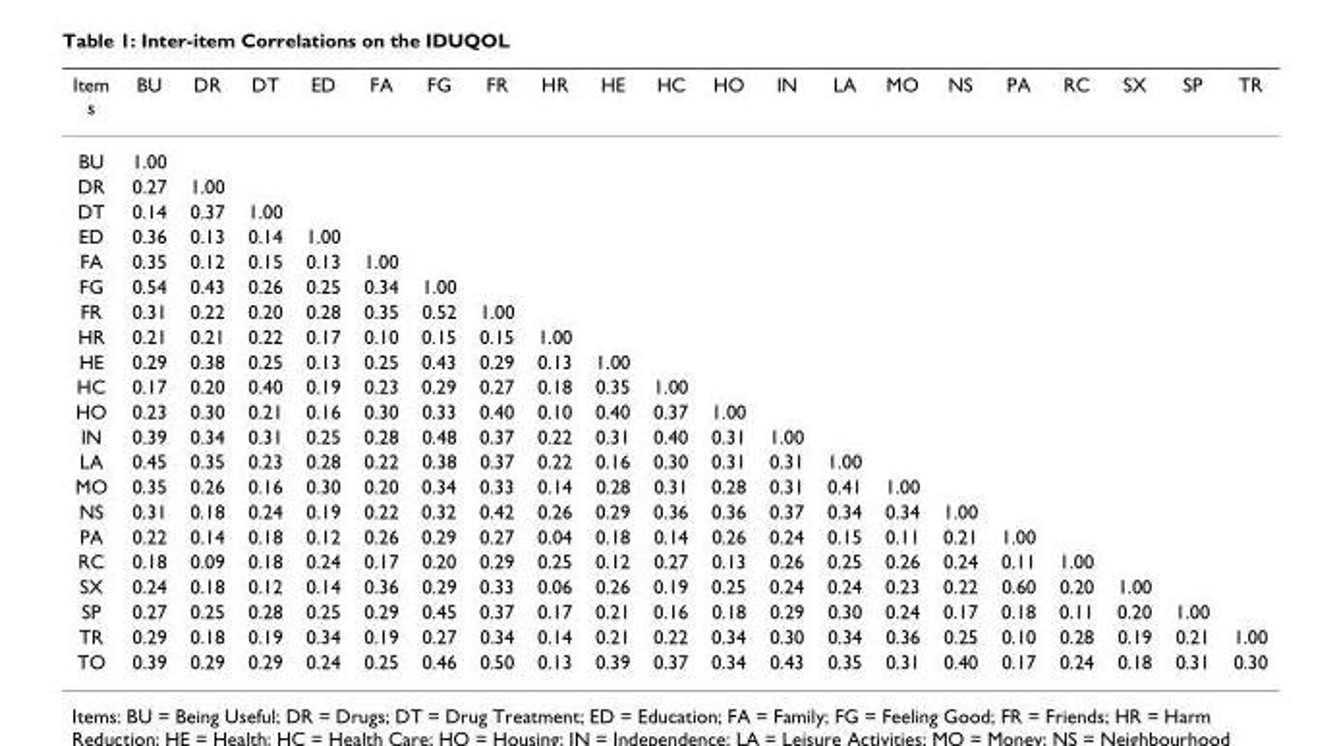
<table><thead><tr><td>Item s</td><td>BU</td><td>DR</td><td>DT</td><td>ED</td><td>FA</td><td>FG</td><td>FR</td><td>HR</td><td>HE</td><td>HC</td><td>HO</td><td>IN</td><td>LA</td><td>MO</td><td>NS</td><td>PA</td><td>RC</td><td>SX</td><td>SP</td><td>TR</td></tr></thead><tbody><tr><td>BU</td><td>1.00</td><td></td><td></td><td></td><td></td><td></td><td></td><td></td><td></td><td></td><td></td><td></td><td></td><td></td><td></td><td></td><td></td><td></td><td></td><td></td></tr><tr><td>DR</td><td>0.27</td><td>1.00</td><td></td><td></td><td></td><td></td><td></td><td></td><td></td><td></td><td></td><td></td><td></td><td></td><td></td><td></td><td></td><td></td><td></td><td></td></tr><tr><td>DT</td><td>0.14</td><td>0.37</td><td>1.00</td><td></td><td></td><td></td><td></td><td></td><td></td><td></td><td></td><td></td><td></td><td></td><td></td><td></td><td></td><td></td><td></td><td></td></tr><tr><td>ED</td><td>0.36</td><td>0.13</td><td>0.14</td><td>1.00</td><td></td><td></td><td></td><td></td><td></td><td></td><td></td><td></td><td></td><td></td><td></td><td></td><td></td><td></td><td></td><td></td></tr><tr><td>FA</td><td>0.35</td><td>0.12</td><td>0.15</td><td>0.13</td><td>1.00</td><td></td><td></td><td></td><td></td><td></td><td></td><td></td><td></td><td></td><td></td><td></td><td></td><td></td><td></td><td></td></tr><tr><td>FG</td><td>0.54</td><td>0.43</td><td>0.26</td><td>0.25</td><td>0.34</td><td>1.00</td><td></td><td></td><td></td><td></td><td></td><td></td><td></td><td></td><td></td><td></td><td></td><td></td><td></td><td></td></tr><tr><td>FR</td><td>0.31</td><td>0.22</td><td>0.20</td><td>0.28</td><td>0.35</td><td>0.52</td><td>1.00</td><td></td><td></td><td></td><td></td><td></td><td></td><td></td><td></td><td></td><td></td><td></td><td></td><td></td></tr><tr><td>HR</td><td>0.21</td><td>0.21</td><td>0.22</td><td>0.17</td><td>0.10</td><td>0.15</td><td>0.15</td><td>1.00</td><td></td><td></td><td></td><td></td><td></td><td></td><td></td><td></td><td></td><td></td><td></td><td></td></tr><tr><td>HE</td><td>0.29</td><td>0.38</td><td>0.25</td><td>0.13</td><td>0.25</td><td>0.43</td><td>0.29</td><td>0.13</td><td>1.00</td><td></td><td></td><td></td><td></td><td></td><td></td><td></td><td></td><td></td><td></td><td></td></tr><tr><td>HC</td><td>0.17</td><td>0.20</td><td>0.40</td><td>0.19</td><td>0.23</td><td>0.29</td><td>0.27</td><td>0.18</td><td>0.35</td><td>1.00</td><td></td><td></td><td></td><td></td><td></td><td></td><td></td><td></td><td></td><td></td></tr><tr><td>HO</td><td>0.23</td><td>0.30</td><td>0.21</td><td>0.16</td><td>0.30</td><td>0.33</td><td>0.40</td><td>0.10</td><td>0.40</td><td>0.37</td><td>1.00</td><td></td><td></td><td></td><td></td><td></td><td></td><td></td><td></td><td></td></tr><tr><td>IN</td><td>0.39</td><td>0.34</td><td>0.31</td><td>0.25</td><td>0.28</td><td>0.48</td><td>0.37</td><td>0.22</td><td>0.31</td><td>0.40</td><td>0.31</td><td>1.00</td><td></td><td></td><td></td><td></td><td></td><td></td><td></td><td></td></tr><tr><td>LA</td><td>0.45</td><td>0.35</td><td>0.23</td><td>0.28</td><td>0.22</td><td>0.38</td><td>0.37</td><td>0.22</td><td>0.16</td><td>0.30</td><td>0.31</td><td>0.31</td><td>1.00</td><td></td><td></td><td></td><td></td><td></td><td></td><td></td></tr><tr><td>MO</td><td>0.35</td><td>0.26</td><td>0.16</td><td>0.30</td><td>0.20</td><td>0.34</td><td>0.33</td><td>0.14</td><td>0.28</td><td>0.31</td><td>0.28</td><td>0.31</td><td>0.41</td><td>1.00</td><td></td><td></td><td></td><td></td><td></td><td></td></tr><tr><td>NS</td><td>0.31</td><td>0.18</td><td>0.24</td><td>0.19</td><td>0.22</td><td>0.32</td><td>0.42</td><td>0.26</td><td>0.29</td><td>0.36</td><td>0.36</td><td>0.37</td><td>0.34</td><td>0.34</td><td>1.00</td><td></td><td></td><td></td><td></td><td></td></tr><tr><td>PA</td><td>0.22</td><td>0.14</td><td>0.18</td><td>0.12</td><td>0.26</td><td>0.29</td><td>0.27</td><td>0.04</td><td>0.18</td><td>0.14</td><td>0.26</td><td>0.24</td><td>0.15</td><td>0.11</td><td>0.21</td><td>1.00</td><td></td><td></td><td></td><td></td></tr><tr><td>RC</td><td>0.18</td><td>0.09</td><td>0.18</td><td>0.24</td><td>0.17</td><td>0.20</td><td>0.29</td><td>0.25</td><td>0.12</td><td>0.27</td><td>0.13</td><td>0.26</td><td>0.25</td><td>0.26</td><td>0.24</td><td>0.11</td><td>1.00</td><td></td><td></td><td></td></tr><tr><td>SX</td><td>0.24</td><td>0.18</td><td>0.12</td><td>0.14</td><td>0.36</td><td>0.29</td><td>0.33</td><td>0.06</td><td>0.26</td><td>0.19</td><td>0.25</td><td>0.24</td><td>0.24</td><td>0.23</td><td>0.22</td><td>0.60</td><td>0.20</td><td>1.00</td><td></td><td></td></tr><tr><td>SP</td><td>0.27</td><td>0.25</td><td>0.28</td><td>0.25</td><td>0.29</td><td>0.45</td><td>0.37</td><td>0.17</td><td>0.21</td><td>0.16</td><td>0.18</td><td>0.29</td><td>0.30</td><td>0.24</td><td>0.17</td><td>0.18</td><td>0.11</td><td>0.20</td><td>1.00</td><td></td></tr><tr><td>TR</td><td>0.29</td><td>0.18</td><td>0.19</td><td>0.34</td><td>0.19</td><td>0.27</td><td>0.34</td><td>0.14</td><td>0.21</td><td>0.22</td><td>0.34</td><td>0.30</td><td>0.34</td><td>0.36</td><td>0.25</td><td>0.10</td><td>0.28</td><td>0.19</td><td>0.21</td><td>1.00</td></tr><tr><td>TO</td><td>0.39</td><td>0.29</td><td>0.29</td><td>0.24</td><td>0.25</td><td>0.46</td><td>0.50</td><td>0.13</td><td>0.39</td><td>0.37</td><td>0.34</td><td>0.43</td><td>0.35</td><td>0.31</td><td>0.40</td><td>0.17</td><td>0.24</td><td>0.18</td><td>0.31</td><td>0.30</td></tr></tbody></table>